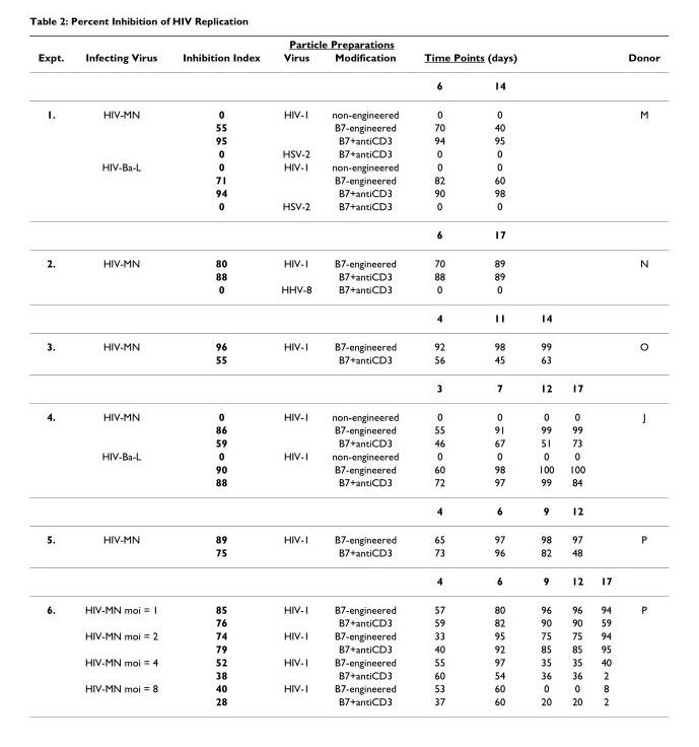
<table><thead><tr><td rowspan="2">Expt.</td><td rowspan="2">Infecting Virus</td><td rowspan="2">Inhibition Index</td><td colspan="2">Particle Preparations</td><td></td><td></td><td rowspan="2"></td><td rowspan="2"></td><td rowspan="2"></td><td rowspan="2">Donor</td></tr><tr><td>Virus</td><td>Modification</td><td colspan="2">Time Points (days)</td></tr></thead><tbody><tr><td></td><td></td><td></td><td></td><td></td><td>6</td><td>14</td><td></td><td></td><td></td><td></td></tr><tr><td rowspan="9">1.</td><td>HIV-MN</td><td>0</td><td>HIV-1</td><td>non-engineered</td><td>0</td><td>0</td><td></td><td></td><td></td><td>M</td></tr><tr><td></td><td>55</td><td></td><td>B7-engineered</td><td>70</td><td>40</td><td></td><td></td><td></td><td></td></tr><tr><td></td><td>95</td><td></td><td>B7+antiCD3</td><td>94</td><td>95</td><td></td><td></td><td></td><td></td></tr><tr><td></td><td>0</td><td>HSV-2</td><td>B7+antiCD3</td><td>0</td><td>0</td><td></td><td></td><td></td><td></td></tr><tr><td>HIV-Ba-L</td><td>0</td><td>HIV-1</td><td>non-engineered</td><td>0</td><td>0</td><td></td><td></td><td></td><td></td></tr><tr><td></td><td>71</td><td></td><td>B7-engineered</td><td>82</td><td>60</td><td></td><td></td><td></td><td></td></tr><tr><td></td><td>94</td><td></td><td>B7+antiCD3</td><td>90</td><td>98</td><td></td><td></td><td></td><td></td></tr><tr><td></td><td>0</td><td>HSV-2</td><td>B7+antiCD3</td><td>0</td><td>0</td><td></td><td></td><td></td><td></td></tr><tr><td></td><td></td><td></td><td></td><td>6</td><td>17</td><td></td><td></td><td></td><td></td></tr><tr><td rowspan="4">2.</td><td>HIV-MN</td><td>80</td><td>HIV-1</td><td>B7-engineered</td><td>70</td><td>89</td><td></td><td></td><td></td><td>N</td></tr><tr><td></td><td>88</td><td></td><td>B7+antiCD3</td><td>88</td><td>89</td><td></td><td></td><td></td><td></td></tr><tr><td></td><td>0</td><td>HHV-8</td><td>B7+antiCD3</td><td>0</td><td>0</td><td></td><td></td><td></td><td></td></tr><tr><td></td><td></td><td></td><td></td><td>4</td><td>11</td><td>14</td><td></td><td></td><td></td></tr><tr><td rowspan="3">3.</td><td>HIV-MN</td><td>96</td><td>HIV-1</td><td>B7-engineered</td><td>92</td><td>98</td><td>99</td><td></td><td></td><td>O</td></tr><tr><td></td><td>55</td><td></td><td>B7+antiCD3</td><td>56</td><td>45</td><td>63</td><td></td><td></td><td></td></tr><tr><td></td><td></td><td></td><td></td><td>3</td><td>7</td><td>12</td><td>17</td><td></td><td></td></tr><tr><td rowspan="7">4.</td><td>HIV-MN</td><td>0</td><td>HIV-1</td><td>non-engineered</td><td>0</td><td>0</td><td>0</td><td>0</td><td></td><td>J</td></tr><tr><td></td><td>86</td><td></td><td>B7-engineered</td><td>55</td><td>91</td><td>99</td><td>99</td><td></td><td></td></tr><tr><td></td><td>59</td><td></td><td>B7+antiCD3</td><td>46</td><td>67</td><td>51</td><td>73</td><td></td><td></td></tr><tr><td>HIV-Ba-L</td><td>0</td><td>HIV-1</td><td>non-engineered</td><td>0</td><td>0</td><td>0</td><td>0</td><td></td><td></td></tr><tr><td></td><td>90</td><td></td><td>B7-engineered</td><td>60</td><td>98</td><td>100</td><td>100</td><td></td><td></td></tr><tr><td></td><td>88</td><td></td><td>B7+antiCD3</td><td>72</td><td>97</td><td>99</td><td>84</td><td></td><td></td></tr><tr><td></td><td></td><td></td><td></td><td>4</td><td>6</td><td>9</td><td>12</td><td></td><td></td></tr><tr><td rowspan="3">5.</td><td>HIV-MN</td><td>89</td><td>HIV-1</td><td>B7-engineered</td><td>65</td><td>97</td><td>98</td><td>97</td><td></td><td>P</td></tr><tr><td></td><td>75</td><td></td><td>B7+antiCD3</td><td>73</td><td>96</td><td>82</td><td>48</td><td></td><td></td></tr><tr><td></td><td></td><td></td><td></td><td>4</td><td>6</td><td>9</td><td>12</td><td>17</td><td></td></tr><tr><td rowspan="8">6.</td><td>HIV-MN moi = 1</td><td>85</td><td>HIV-1</td><td>B7-engineered</td><td>57</td><td>80</td><td>96</td><td>96</td><td>94</td><td>P</td></tr><tr><td></td><td>76</td><td></td><td>B7+antiCD3</td><td>59</td><td>82</td><td>90</td><td>90</td><td>59</td><td></td></tr><tr><td>HIV-MN moi = 2</td><td>74</td><td>HIV-1</td><td>B7-engineered</td><td>33</td><td>95</td><td>75</td><td>75</td><td>94</td><td></td></tr><tr><td></td><td>79</td><td></td><td>B7+antiCD3</td><td>40</td><td>92</td><td>85</td><td>85</td><td>95</td><td></td></tr><tr><td>HIV-MN moi = 4</td><td>52</td><td>HIV-1</td><td>B7-engineered</td><td>55</td><td>97</td><td>35</td><td>35</td><td>40</td><td></td></tr><tr><td></td><td>38</td><td></td><td>B7+antiCD3</td><td>60</td><td>54</td><td>36</td><td>36</td><td>2</td><td></td></tr><tr><td>HIV-MN moi = 8</td><td>40</td><td>HIV-1</td><td>B7-engineered</td><td>53</td><td>60</td><td>0</td><td>0</td><td>8</td><td></td></tr><tr><td></td><td>28</td><td></td><td>B7+antiCD3</td><td>37</td><td>60</td><td>20</td><td>20</td><td>2</td><td></td></tr></tbody></table>